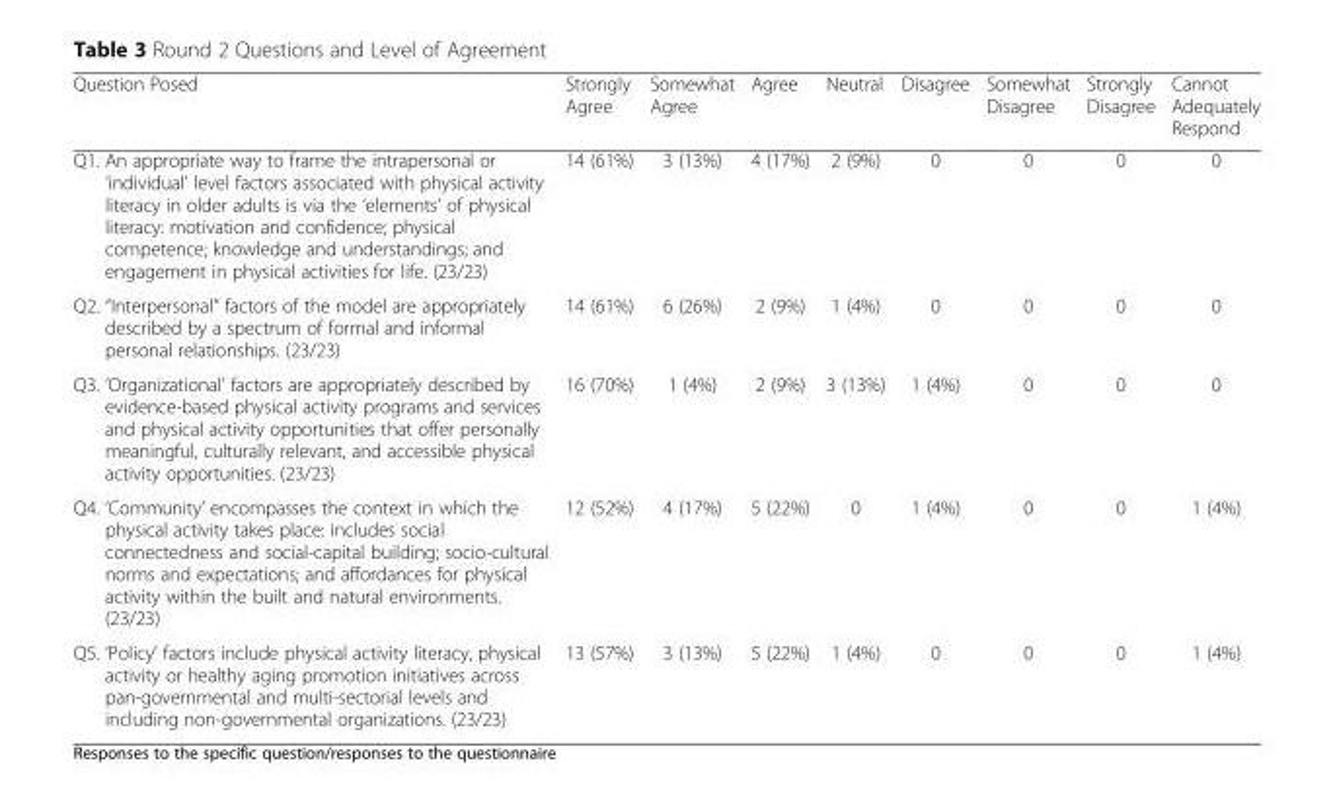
<table><thead><tr><td>Question Posed</td><td>Strongly Agree</td><td>Somewhat Agree</td><td>Agree</td><td>Neutral</td><td>Disagree</td><td>Somewhat Disagree</td><td>Strongly Disagree</td><td>Cannot Adequately Respond</td></tr></thead><tbody><tr><td>Q1. An appropriate way to frame the intrapersonal or ‘individual’ level factors associated with physical activity literacy in older adults is via the ‘elements’ of physical literacy: motivation and confidence; physical competence; knowledge and understandings; and engagement in physical activities for life. (23/23)</td><td>14 (61%)</td><td>3 (13%)</td><td>4 (17%)</td><td>2 (9%)</td><td>0</td><td>0</td><td>0</td><td>0</td></tr><tr><td>Q2. “Interpersonal” factors of the model are appropriately described by a spectrum of formal and informal personal relationships. (23/23)</td><td>14 (61%)</td><td>6 (26%)</td><td>2 (9%)</td><td>1 (4%)</td><td>0</td><td>0</td><td>0</td><td>0</td></tr><tr><td>Q3. ‘Organizational’ factors are appropriately described by evidence-based physical activity programs and services and physical activity opportunities that offer personally meaningful, culturally relevant, and accessible physical activity opportunities. (23/23)</td><td>16 (70%)</td><td>1 (4%)</td><td>2 (9%)</td><td>3 (13%)</td><td>1 (4%)</td><td>0</td><td>0</td><td>0</td></tr><tr><td>Q4. ‘Community’ encompasses the context in which the physical activity takes place: includes social connectedness and social-capital building; socio-cultural norms and expectations; and affordances for physical activity within the built and natural environments. (23/23)</td><td>12 (52%)</td><td>4 (17%)</td><td>5 (22%)</td><td>0</td><td>1 (4%)</td><td>0</td><td>0</td><td>1 (4%)</td></tr><tr><td>Q5. ‘Policy’ factors include physical activity literacy, physical activity or healthy aging promotion initiatives across pan-governmental and multi-sectorial levels and including non-governmental organizations. (23/23)</td><td>13 (57%)</td><td>3 (13%)</td><td>5 (22%)</td><td>1 (4%)</td><td>0</td><td>0</td><td>0</td><td>1 (4%)</td></tr></tbody></table>